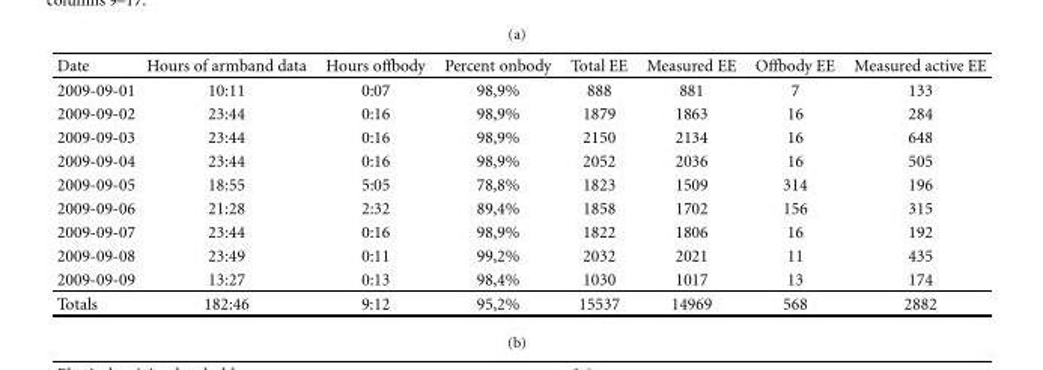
<table><thead><tr><td>Date</td><td>Hours of armband data</td><td>Hours offbody</td><td>Percent onbody</td><td>Total EE</td><td>Measured EE</td><td>Offbody EE</td><td>Measured active EE</td></tr></thead><tbody><tr><td>2009-09-01</td><td>10:11</td><td>0:07</td><td>98,9%</td><td>888</td><td>881</td><td>7</td><td>133</td></tr><tr><td>2009-09-02</td><td>23:44</td><td>0:16</td><td>98,9%</td><td>1879</td><td>1863</td><td>16</td><td>284</td></tr><tr><td>2009-09-03</td><td>23:44</td><td>0:16</td><td>98,9%</td><td>2150</td><td>2134</td><td>16</td><td>648</td></tr><tr><td>2009-09-04</td><td>23:44</td><td>0:16</td><td>98,9%</td><td>2052</td><td>2036</td><td>16</td><td>505</td></tr><tr><td>2009-09-05</td><td>18:55</td><td>5:05</td><td>78,8%</td><td>1823</td><td>1509</td><td>314</td><td>196</td></tr><tr><td>2009-09-06</td><td>21:28</td><td>2:32</td><td>89,4%</td><td>1858</td><td>1702</td><td>156</td><td>315</td></tr><tr><td>2009-09-07</td><td>23:44</td><td>0:16</td><td>98,9%</td><td>1822</td><td>1806</td><td>16</td><td>192</td></tr><tr><td>2009-09-08</td><td>23:49</td><td>0:11</td><td>99,2%</td><td>2032</td><td>2021</td><td>11</td><td>435</td></tr><tr><td>2009-09-09</td><td>13:27</td><td>0:13</td><td>98,4%</td><td>1030</td><td>1017</td><td>13</td><td>174</td></tr><tr><td>Totals</td><td>182:46</td><td>9:12</td><td>95,2%</td><td>15537</td><td>14969</td><td>568</td><td>2882</td></tr></tbody></table>